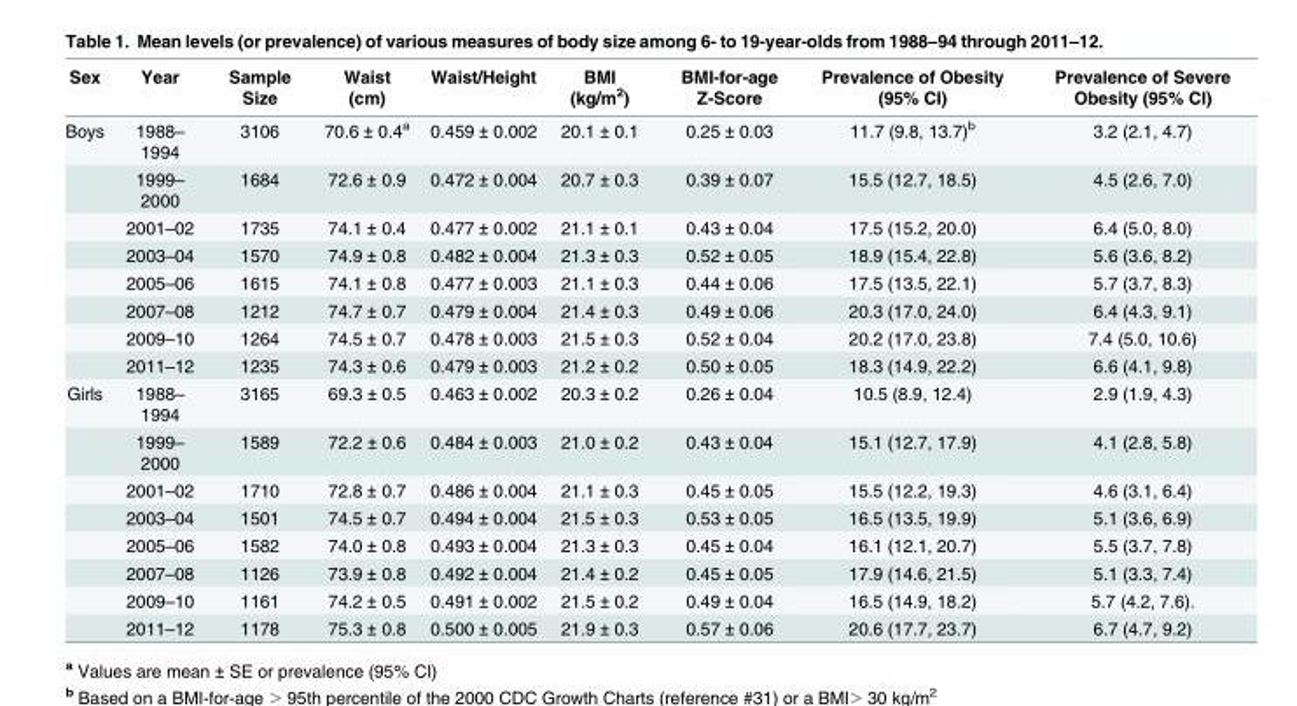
<table><thead><tr><td>Sex</td><td>Year</td><td>Sample Size</td><td>Waist (cm)</td><td>Waist/Height</td><td>BMI (kg/m<sup>2</sup>)</td><td>BMI-for-age Z-Score</td><td>Prevalence of Obesity (95% CI)</td><td>Prevalence of Severe Obesity (95% CI)</td></tr></thead><tbody><tr><td rowspan="8">Boys</td><td>1988– 1994</td><td>3106</td><td>70.6 ± 0.4<sup>a</sup></td><td>0.459 ± 0.002</td><td>20.1 ± 0.1</td><td>0.25 ± 0.03</td><td>11.7 (9.8, 13.7)<sup>b</sup></td><td>3.2 (2.1, 4.7)</td></tr><tr><td>1999– 2000</td><td>1684</td><td>72.6 ± 0.9</td><td>0.472 ± 0.004</td><td>20.7 ± 0.3</td><td>0.39 ± 0.07</td><td>15.5 (12.7, 18.5)</td><td>4.5 (2.6, 7.0)</td></tr><tr><td>2001–02</td><td>1735</td><td>74.1 ± 0.4</td><td>0.477 ± 0.002</td><td>21.1 ± 0.1</td><td>0.43 ± 0.04</td><td>17.5 (15.2, 20.0)</td><td>6.4 (5.0, 8.0)</td></tr><tr><td>2003–04</td><td>1570</td><td>74.9 ± 0.8</td><td>0.482 ± 0.004</td><td>21.3 ± 0.3</td><td>0.52 ± 0.05</td><td>18.9 (15.4, 22.8)</td><td>5.6 (3.6, 8.2)</td></tr><tr><td>2005–06</td><td>1615</td><td>74.1 ± 0.8</td><td>0.477 ± 0.003</td><td>21.1 ± 0.3</td><td>0.44 ± 0.06</td><td>17.5 (13.5, 22.1)</td><td>5.7 (3.7, 8.3)</td></tr><tr><td>2007–08</td><td>1212</td><td>74.7 ± 0.7</td><td>0.479 ± 0.004</td><td>21.4 ± 0.3</td><td>0.49 ± 0.06</td><td>20.3 (17.0, 24.0)</td><td>6.4 (4.3, 9.1)</td></tr><tr><td>2009–10</td><td>1264</td><td>74.5 ± 0.7</td><td>0.478 ± 0.003</td><td>21.5 ± 0.3</td><td>0.52 ± 0.04</td><td>20.2 (17.0, 23.8)</td><td>7.4 (5.0, 10.6)</td></tr><tr><td>2011–12</td><td>1235</td><td>74.3 ± 0.6</td><td>0.479 ± 0.003</td><td>21.2 ± 0.2</td><td>0.50 ± 0.05</td><td>18.3 (14.9, 22.2)</td><td>6.6 (4.1, 9.8)</td></tr><tr><td rowspan="8">Girls</td><td>1988– 1994</td><td>3165</td><td>69.3 ± 0.5</td><td>0.463 ± 0.002</td><td>20.3 ± 0.2</td><td>0.26 ± 0.04</td><td>10.5 (8.9, 12.4)</td><td>2.9 (1.9, 4.3)</td></tr><tr><td>1999– 2000</td><td>1589</td><td>72.2 ± 0.6</td><td>0.484 ± 0.003</td><td>21.0 ± 0.2</td><td>0.43 ± 0.04</td><td>15.1 (12.7, 17.9)</td><td>4.1 (2.8, 5.8)</td></tr><tr><td>2001–02</td><td>1710</td><td>72.8 ± 0.7</td><td>0.486 ± 0.004</td><td>21.1 ± 0.3</td><td>0.45 ± 0.05</td><td>15.5 (12.2, 19.3)</td><td>4.6 (3.1, 6.4)</td></tr><tr><td>2003–04</td><td>1501</td><td>74.5 ± 0.7</td><td>0.494 ± 0.004</td><td>21.5 ± 0.3</td><td>0.53 ± 0.05</td><td>16.5 (13.5, 19.9)</td><td>5.1 (3.6, 6.9)</td></tr><tr><td>2005–06</td><td>1582</td><td>74.0 ± 0.8</td><td>0.493 ± 0.004</td><td>21.3 ± 0.3</td><td>0.45 ± 0.04</td><td>16.1 (12.1, 20.7)</td><td>5.5 (3.7, 7.8)</td></tr><tr><td>2007–08</td><td>1126</td><td>73.9 ± 0.8</td><td>0.492 ± 0.004</td><td>21.4 ± 0.2</td><td>0.45 ± 0.05</td><td>17.9 (14.6, 21.5)</td><td>5.1 (3.3, 7.4)</td></tr><tr><td>2009–10</td><td>1161</td><td>74.2 ± 0.5</td><td>0.491 ± 0.002</td><td>21.5 ± 0.2</td><td>0.49 ± 0.04</td><td>16.5 (14.9, 18.2)</td><td>5.7 (4.2, 7.6).</td></tr><tr><td>2011–12</td><td>1178</td><td>75.3 ± 0.8</td><td>0.500 ± 0.005</td><td>21.9 ± 0.3</td><td>0.57 ± 0.06</td><td>20.6 (17.7, 23.7)</td><td>6.7 (4.7, 9.2)</td></tr></tbody></table>